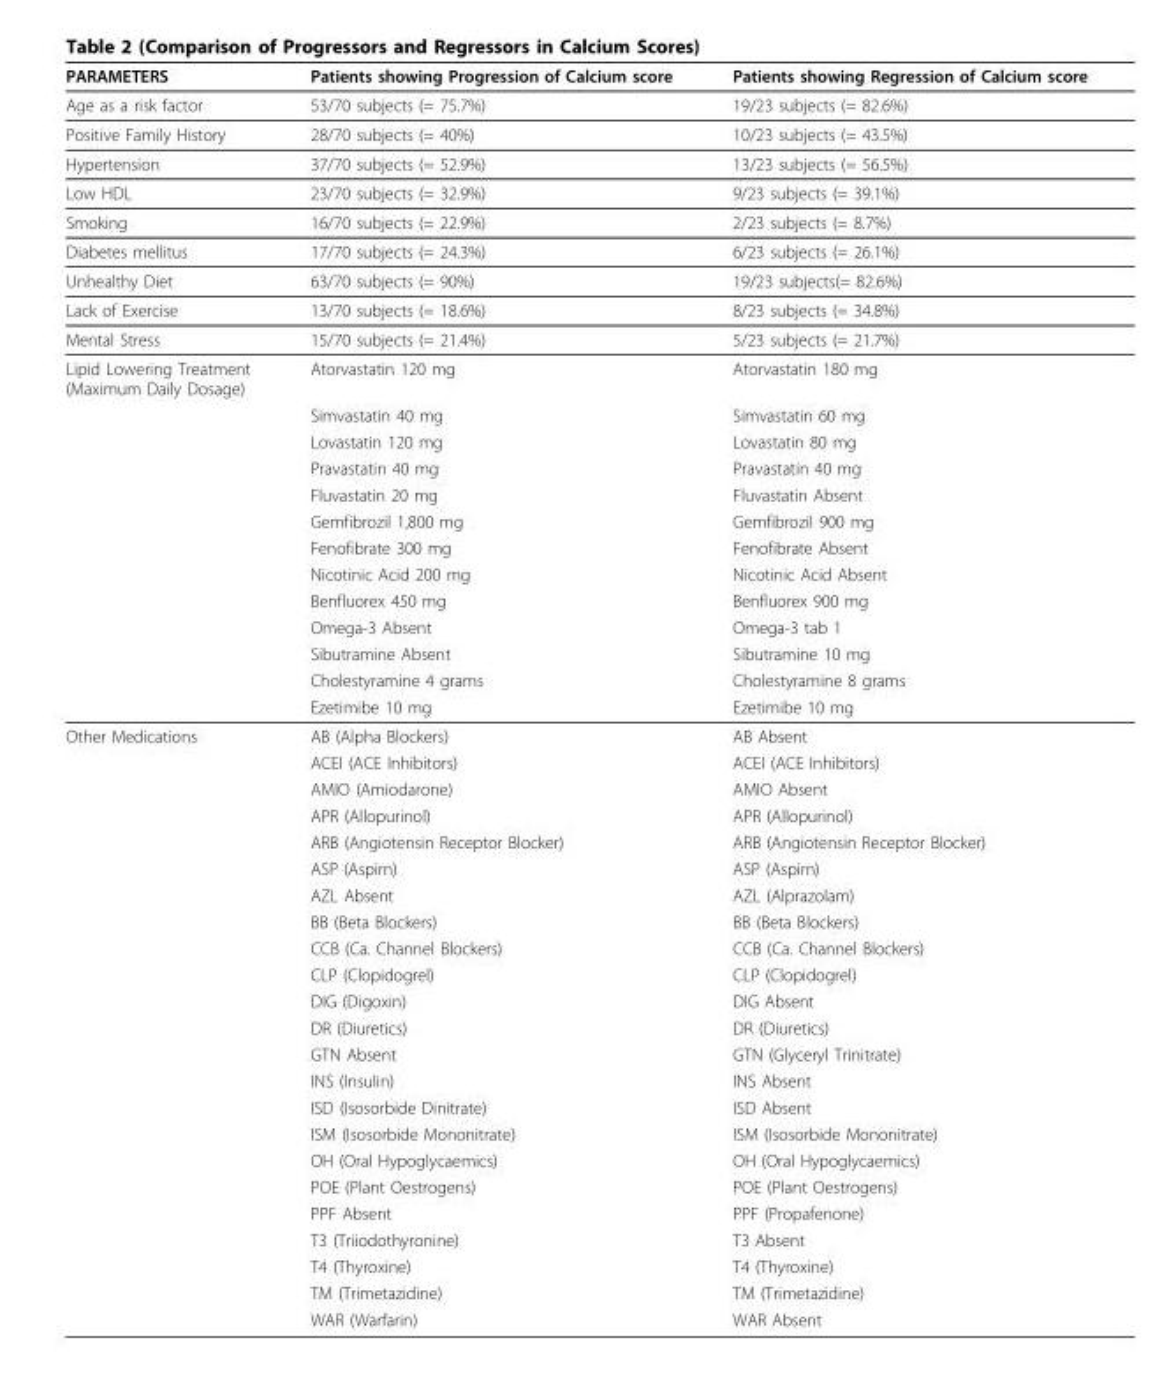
<table><thead><tr><td>PARAMETERS</td><td>Patients showing Progression of Calcium score</td><td>Patients showing Regression of Calcium score</td></tr></thead><tbody><tr><td>Age as a risk factor</td><td>53/70 subjects (= 75.7%)</td><td>19/23 subjects (= 82.6%)</td></tr><tr><td>Positive Family History</td><td>28/70 subjects (= 40%)</td><td>10/23 subjects (= 43.5%)</td></tr><tr><td>Hypertension</td><td>37/70 subjects (= 52.9%)</td><td>13/23 subjects (= 56.5%)</td></tr><tr><td>Low HDL</td><td>23/70 subjects (= 32.9%)</td><td>9/23 subjects (= 39.1%)</td></tr><tr><td>Smoking</td><td>16/70 subjects (= 22.9%)</td><td>2/23 subjects (= 8.7%)</td></tr><tr><td>Diabetes mellitus</td><td>17/70 subjects (= 24.3%)</td><td>6/23 subjects (= 26.1%)</td></tr><tr><td>Unhealthy Diet</td><td>63/70 subjects (= 90%)</td><td>19/23 subjects(= 82.6%)</td></tr><tr><td>Lack of Exercise</td><td>13/70 subjects (= 18.6%)</td><td>8/23 subjects (= 34.8%)</td></tr><tr><td>Mental Stress</td><td>15/70 subjects (= 21.4%)</td><td>5/23 subjects (= 21.7%)</td></tr><tr><td rowspan="13">Lipid Lowering Treatment (Maximum Daily Dosage)</td><td>Atorvastatin 120 mg</td><td>Atorvastatin 180 mg</td></tr><tr><td>Simvastatin 40 mg</td><td>Simvastatin 60 mg</td></tr><tr><td>Lovastatin 120 mg</td><td>Lovastatin 80 mg</td></tr><tr><td>Pravastatin 40 mg</td><td>Pravastatin 40 mg</td></tr><tr><td>Fluvastatin 20 mg</td><td>Fluvastatin Absent</td></tr><tr><td>Gemfibrozil 1,800 mg</td><td>Gemfibrozil 900 mg</td></tr><tr><td>Fenofibrate 300 mg</td><td>Fenofibrate Absent</td></tr><tr><td>Nicotinic Acid 200 mg</td><td>Nicotinic Acid Absent</td></tr><tr><td>Benfluorex 450 mg</td><td>Benfluorex 900 mg</td></tr><tr><td>Omega-3 Absent</td><td>Omega-3 tab 1</td></tr><tr><td>Sibutramine Absent</td><td>Sibutramine 10 mg</td></tr><tr><td>Cholestyramine 4 grams</td><td>Cholestyramine 8 grams</td></tr><tr><td>Ezetimibe 10 mg</td><td>Ezetimibe 10 mg</td></tr><tr><td rowspan="23">Other Medications</td><td>AB (Alpha Blockers)</td><td>AB Absent</td></tr><tr><td>ACEI (ACE Inhibitors)</td><td>ACEI (ACE Inhibitors)</td></tr><tr><td>AMIO (Amiodarone)</td><td>AMIO Absent</td></tr><tr><td>APR (Allopurinol)</td><td>APR (Allopurinol)</td></tr><tr><td>ARB (Angiotensin Receptor Blocker)</td><td>ARB (Angiotensin Receptor Blocker)</td></tr><tr><td>ASP (Aspirn)</td><td>ASP (Aspirn)</td></tr><tr><td>AZL Absent</td><td>AZL (Alprazolam)</td></tr><tr><td>BB (Beta Blockers)</td><td>BB (Beta Blockers)</td></tr><tr><td>CCB (Ca. Channel Blockers)</td><td>CCB (Ca. Channel Blockers)</td></tr><tr><td>CLP (Clopidogrel)</td><td>CLP (Clopidogrel)</td></tr><tr><td>DIG (Digoxin)</td><td>DIG Absent</td></tr><tr><td>DR (Diuretics)</td><td>DR (Diuretics)</td></tr><tr><td>GTN Absent</td><td>GTN (Glyceryl Trinitrate)</td></tr><tr><td>INS (Insulin)</td><td>INS Absent</td></tr><tr><td>ISD (Isosorbide Dinitrate)</td><td>ISD Absent</td></tr><tr><td>ISM (Isosorbide Mononitrate)</td><td>ISM (Isosorbide Mononitrate)</td></tr><tr><td>OH (Oral Hypoglycaemics)</td><td>OH (Oral Hypoglycaemics)</td></tr><tr><td>POE (Plant Oestrogens)</td><td>POE (Plant Oestrogens)</td></tr><tr><td>PPF Absent</td><td>PPF (Propafenone)</td></tr><tr><td>T3 (Triiodothyronine)</td><td>T3 Absent</td></tr><tr><td>T4 (Thyroxine)</td><td>T4 (Thyroxine)</td></tr><tr><td>TM (Trimetazidine)</td><td>TM (Trimetazidine)</td></tr><tr><td>WAR (Warfarin)</td><td>WAR Absent</td></tr></tbody></table>